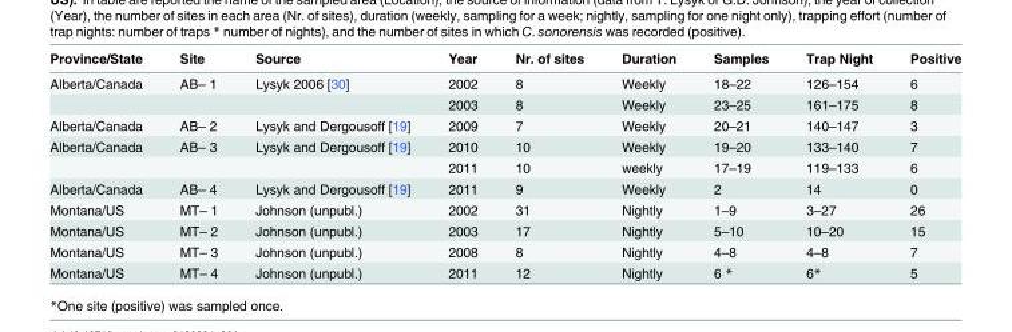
<table><thead><tr><td>Province/State</td><td>Site</td><td>Source</td><td>Year</td><td>Nr. of sites</td><td>Duration</td><td>Samples</td><td>Trap Night</td><td>Positive</td></tr></thead><tbody><tr><td rowspan="2">Alberta/Canada</td><td>AB– 1</td><td>Lysyk 2006 [30]</td><td>2002</td><td>8</td><td>Weekly</td><td>18–22</td><td>126–154</td><td>6</td></tr><tr><td></td><td></td><td>2003</td><td>8</td><td>Weekly</td><td>23–25</td><td>161–175</td><td>8</td></tr><tr><td>Alberta/Canada</td><td>AB– 2</td><td>Lysyk and Dergousoff [19]</td><td>2009</td><td>7</td><td>Weekly</td><td>20–21</td><td>140–147</td><td>3</td></tr><tr><td rowspan="2">Alberta/Canada</td><td>AB– 3</td><td>Lysyk and Dergousoff [19]</td><td>2010</td><td>10</td><td>Weekly</td><td>19–20</td><td>133–140</td><td>7</td></tr><tr><td></td><td></td><td>2011</td><td>10</td><td>weekly</td><td>17–19</td><td>119–133</td><td>6</td></tr><tr><td>Alberta/Canada</td><td>AB– 4</td><td>Lysyk and Dergousoff [19]</td><td>2011</td><td>9</td><td>Weekly</td><td>2</td><td>14</td><td>0</td></tr><tr><td>Montana/US</td><td>MT– 1</td><td>Johnson (unpubl.)</td><td>2002</td><td>31</td><td>Nightly</td><td>1–9</td><td>3–27</td><td>26</td></tr><tr><td>Montana/US</td><td>MT– 2</td><td>Johnson (unpubl.)</td><td>2003</td><td>17</td><td>Nightly</td><td>5–10</td><td>10–20</td><td>15</td></tr><tr><td>Montana/US</td><td>MT– 3</td><td>Johnson (unpubl.)</td><td>2008</td><td>8</td><td>Nightly</td><td>4–8</td><td>4–8</td><td>7</td></tr><tr><td>Montana/US</td><td>MT– 4</td><td>Johnson (unpubl.)</td><td>2011</td><td>12</td><td>Nightly</td><td>6 *</td><td>6*</td><td>5</td></tr></tbody></table>